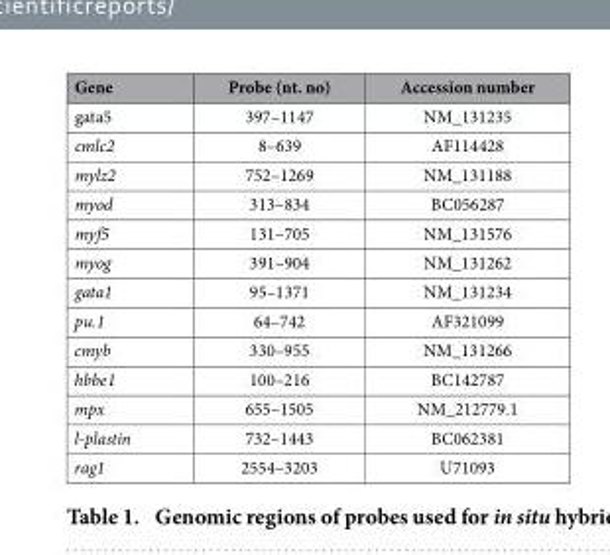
<table><thead><tr><td>Gene</td><td>Probe (nt. no)</td><td>Accession number</td></tr></thead><tbody><tr><td>gata5</td><td>397–1147</td><td>NM_131235</td></tr><tr><td>cmlc2</td><td>8–639</td><td>AF114428</td></tr><tr><td>mylz2</td><td>752–1269</td><td>NM_131188</td></tr><tr><td>myod</td><td>313–834</td><td>BC056287</td></tr><tr><td>myf5</td><td>131–705</td><td>NM_131576</td></tr><tr><td>myog</td><td>391–904</td><td>NM_131262</td></tr><tr><td>gata1</td><td>95–1371</td><td>NM_131234</td></tr><tr><td>pu.1</td><td>64–742</td><td>AF321099</td></tr><tr><td>cmyb</td><td>330–955</td><td>NM_131266</td></tr><tr><td>hbbe1</td><td>100–216</td><td>BC142787</td></tr><tr><td>mpx</td><td>655–1505</td><td>NM_212779.1</td></tr><tr><td>l-plastin</td><td>732–1443</td><td>BC062381</td></tr><tr><td>rag1</td><td>2554–3203</td><td>U71093</td></tr></tbody></table>